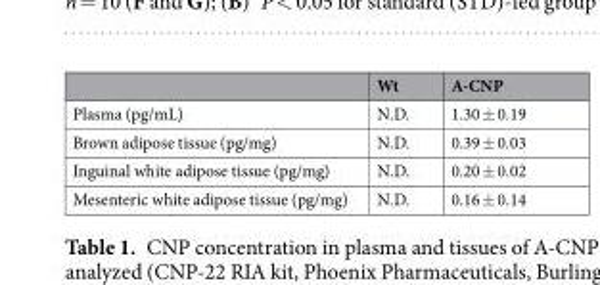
<table><thead><tr><td></td><td>Wt</td><td>A-CNP</td></tr></thead><tbody><tr><td>Plasma (pg/mL)</td><td>N.D.</td><td>1.30 ± 0.19</td></tr><tr><td>Brown adipose tissue (pg/mg)</td><td>N.D.</td><td>0.39 ± 0.03</td></tr><tr><td>Inguinal white adipose tissue (pg/mg)</td><td>N.D.</td><td>0.20 ± 0.02</td></tr><tr><td>Mesenteric white adipose tissue (pg/mg)</td><td>N.D.</td><td>0.16 ± 0.14</td></tr></tbody></table>